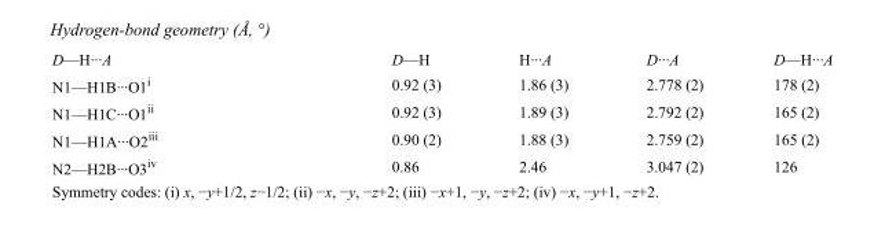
<table><tbody><tr><td>D—H···A</td><td>D—H</td><td>H···A</td><td>D···A</td><td>D—H···A</td></tr><tr><td>N1—H1B···O1<sup>i</sup></td><td>0.92 (3)</td><td>1.86 (3)</td><td>2.778 (2)</td><td>178 (2)</td></tr><tr><td>N1—H1C···O1<sup>ii</sup></td><td>0.92 (3)</td><td>1.89 (3)</td><td>2.792 (2)</td><td>165 (2)</td></tr><tr><td>N1—H1A···O2<sup>iii</sup></td><td>0.90 (2)</td><td>1.88 (3)</td><td>2.759 (2)</td><td>165 (2)</td></tr><tr><td>N2—H2B···O3<sup>iv</sup></td><td>0.86</td><td>2.46</td><td>3.047 (2)</td><td>126</td></tr></tbody></table>